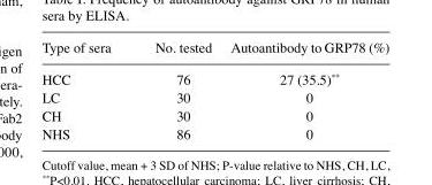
<table><thead><tr><td>Type of sera</td><td>No. tested</td><td>Autoantibody to GRP78 (%)</td></tr></thead><tbody><tr><td>HCC</td><td>76</td><td>27 (35.5)**</td></tr><tr><td>LC</td><td>30</td><td>0</td></tr><tr><td>CH</td><td>30</td><td>0</td></tr><tr><td>NHS</td><td>86</td><td>0</td></tr></tbody></table>